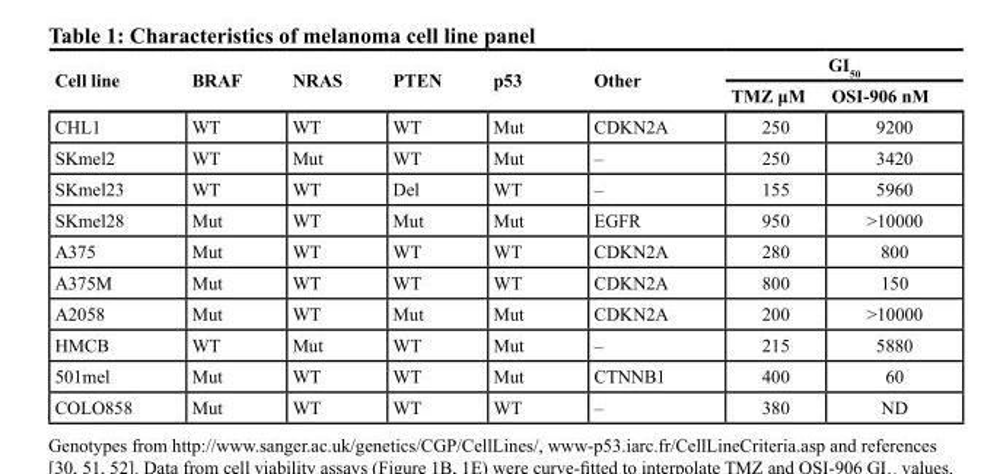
<table><thead><tr><td rowspan="2">Cell line</td><td rowspan="2">BRAF</td><td rowspan="2">NRAS</td><td rowspan="2">PTEN</td><td rowspan="2">p53</td><td rowspan="2">Other</td><td colspan="2">GI<sub>50</sub></td></tr><tr><td>TMZ μM</td><td>OSI-906 nM</td></tr></thead><tbody><tr><td>CHL1</td><td>WT</td><td>WT</td><td>WT</td><td>Mut</td><td>CDKN2A</td><td>250</td><td>9200</td></tr><tr><td>SKmel2</td><td>WT</td><td>Mut</td><td>WT</td><td>Mut</td><td>–</td><td>250</td><td>3420</td></tr><tr><td>SKmel23</td><td>WT</td><td>WT</td><td>Del</td><td>WT</td><td>–</td><td>155</td><td>5960</td></tr><tr><td>SKmel28</td><td>Mut</td><td>WT</td><td>Mut</td><td>Mut</td><td>EGFR</td><td>950</td><td>&gt;10000</td></tr><tr><td>A375</td><td>Mut</td><td>WT</td><td>WT</td><td>WT</td><td>CDKN2A</td><td>280</td><td>800</td></tr><tr><td>A375M</td><td>Mut</td><td>WT</td><td>WT</td><td>WT</td><td>CDKN2A</td><td>800</td><td>150</td></tr><tr><td>A2058</td><td>Mut</td><td>WT</td><td>Mut</td><td>Mut</td><td>CDKN2A</td><td>200</td><td>&gt;10000</td></tr><tr><td>HMCB</td><td>WT</td><td>Mut</td><td>WT</td><td>Mut</td><td>–</td><td>215</td><td>5880</td></tr><tr><td>501mel</td><td>Mut</td><td>WT</td><td>WT</td><td>Mut</td><td>CTNNB1</td><td>400</td><td>60</td></tr><tr><td>COLO858</td><td>Mut</td><td>WT</td><td>WT</td><td>WT</td><td>–</td><td>380</td><td>ND</td></tr></tbody></table>